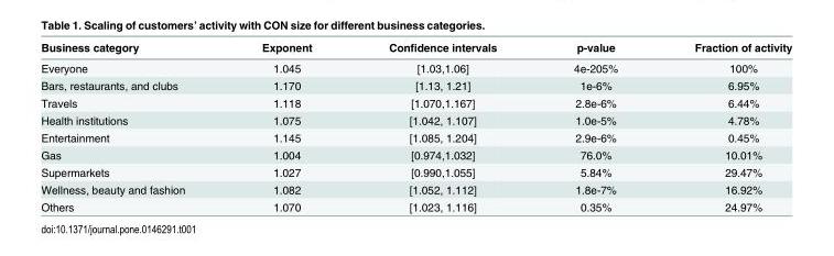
<table><thead><tr><td>Business category</td><td>Exponent</td><td>Confidence intervals</td><td>p-value</td><td>Fraction of activity</td></tr></thead><tbody><tr><td>Everyone</td><td>1.045</td><td>[1.03,1.06]</td><td>4e-205%</td><td>100%</td></tr><tr><td>Bars, restaurants, and clubs</td><td>1.170</td><td>[1.13, 1.21]</td><td>1e-6%</td><td>6.95%</td></tr><tr><td>Travels</td><td>1.118</td><td>[1.070,1.167]</td><td>2.8e-6%</td><td>6.44%</td></tr><tr><td>Health institutions</td><td>1.075</td><td>[1.042, 1.107]</td><td>1.0e-5%</td><td>4.78%</td></tr><tr><td>Entertainment</td><td>1.145</td><td>[1.085, 1.204]</td><td>2.9e-6%</td><td>0.45%</td></tr><tr><td>Gas</td><td>1.004</td><td>[0.974,1.032]</td><td>76.0%</td><td>10.01%</td></tr><tr><td>Supermarkets</td><td>1.027</td><td>[0.990,1.055]</td><td>5.84%</td><td>29.47%</td></tr><tr><td>Wellness, beauty and fashion</td><td>1.082</td><td>[1.052, 1.112]</td><td>1.8e-7%</td><td>16.92%</td></tr><tr><td>Others</td><td>1.070</td><td>[1.023, 1.116]</td><td>0.35%</td><td>24.97%</td></tr></tbody></table>